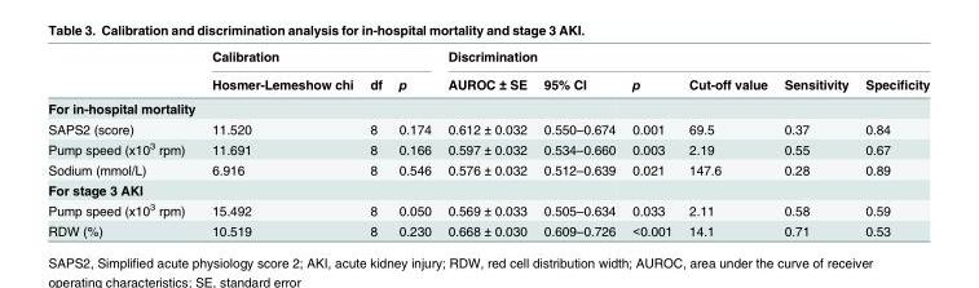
<table><thead><tr><td rowspan="2"></td><td colspan="3">Calibration</td><td colspan="6">Discrimination</td></tr><tr><td>Hosmer-Lemeshow chi</td><td>df</td><td>p</td><td>AUROC ± SE</td><td>95% CI</td><td>p</td><td>Cut-off value</td><td>Sensitivity</td><td>Specificity</td></tr></thead><tbody><tr><td colspan="10">For in-hospital mortality</td></tr><tr><td>SAPS2 (score)</td><td>11.520</td><td>8</td><td>0.174</td><td>0.612 ± 0.032</td><td>0.550–0.674</td><td>0.001</td><td>69.5</td><td>0.37</td><td>0.84</td></tr><tr><td>Pump speed (x10<sup>3</sup> rpm)</td><td>11.691</td><td>8</td><td>0.166</td><td>0.597 ± 0.032</td><td>0.534–0.660</td><td>0.003</td><td>2.19</td><td>0.55</td><td>0.67</td></tr><tr><td>Sodium (mmol/L)</td><td>6.916</td><td>8</td><td>0.546</td><td>0.576 ± 0.032</td><td>0.512–0.639</td><td>0.021</td><td>147.6</td><td>0.28</td><td>0.89</td></tr><tr><td colspan="10">For stage 3 AKI</td></tr><tr><td>Pump speed (x10<sup>3</sup> rpm)</td><td>15.492</td><td>8</td><td>0.050</td><td>0.569 ± 0.033</td><td>0.505–0.634</td><td>0.033</td><td>2.11</td><td>0.58</td><td>0.59</td></tr><tr><td>RDW (%)</td><td>10.519</td><td>8</td><td>0.230</td><td>0.668 ± 0.030</td><td>0.609–0.726</td><td>&lt;0.001</td><td>14.1</td><td>0.71</td><td>0.53</td></tr></tbody></table>